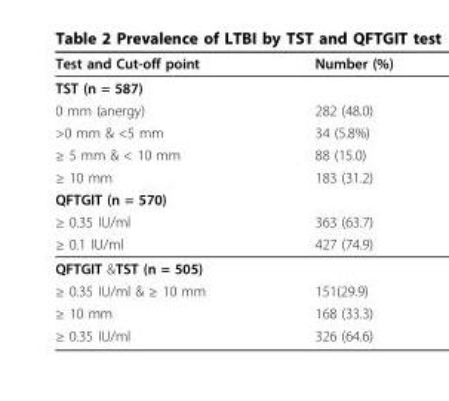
<table><thead><tr><td>Test and Cut-off point</td><td>Number (%)</td></tr></thead><tbody><tr><td colspan="2">TST (n = 587)</td></tr><tr><td>0 mm (anergy)</td><td>282 (48.0)</td></tr><tr><td>&gt;0 mm &amp; &lt;5 mm</td><td>34 (5.8%)</td></tr><tr><td>≥ 5 mm &amp; &lt; 10 mm</td><td>88 (15.0)</td></tr><tr><td>≥ 10 mm</td><td>183 (31.2)</td></tr><tr><td colspan="2">QFTGIT (n = 570)</td></tr><tr><td>≥ 0.35 IU/ml</td><td>363 (63.7)</td></tr><tr><td>≥ 0.1 IU/ml</td><td>427 (74.9)</td></tr><tr><td colspan="2">QFTGIT &amp;TST (n = 505)</td></tr><tr><td>≥ 0.35 IU/ml &amp; ≥ 10 mm</td><td>151(29.9)</td></tr><tr><td>≥ 10 mm</td><td>168 (33.3)</td></tr><tr><td>≥ 0.35 IU/ml</td><td>326 (64.6)</td></tr></tbody></table>